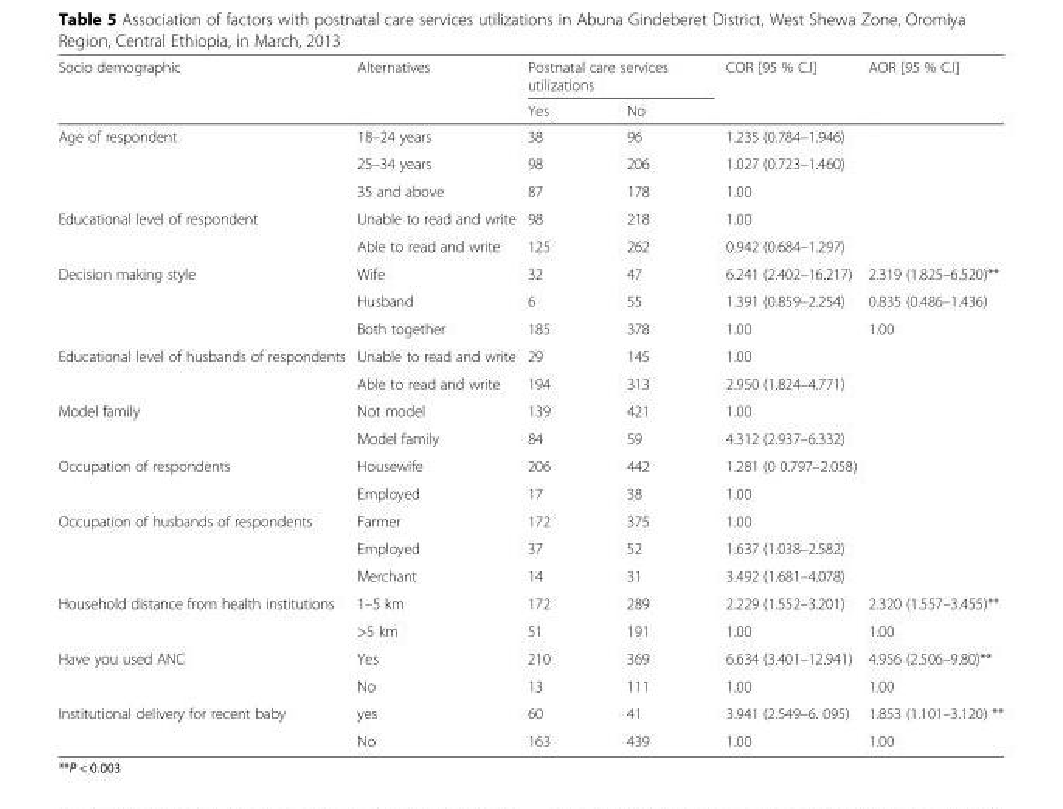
<table><thead><tr><td rowspan="2">Socio demographic</td><td rowspan="2">Alternatives</td><td colspan="2">Postnatal care services utilizations</td><td rowspan="2">COR [95 % C.I]</td><td rowspan="2">AOR [95 % C.I]</td></tr><tr><td>Yes</td><td>No</td></tr></thead><tbody><tr><td rowspan="3">Age of respondent</td><td>18–24 years</td><td>38</td><td>96</td><td>1.235 (0.784–1.946)</td><td></td></tr><tr><td>25–34 years</td><td>98</td><td>206</td><td>1.027 (0.723–1.460)</td><td></td></tr><tr><td>35 and above</td><td>87</td><td>178</td><td>1.00</td><td></td></tr><tr><td rowspan="2">Educational level of respondent</td><td>Unable to read and write</td><td>98</td><td>218</td><td>1.00</td><td></td></tr><tr><td>Able to read and write</td><td>125</td><td>262</td><td>0.942 (0.684–1.297)</td><td></td></tr><tr><td rowspan="3">Decision making style</td><td>Wife</td><td>32</td><td>47</td><td>6.241 (2.402–16.217)</td><td>2.319 (1.825–6.520)**</td></tr><tr><td>Husband</td><td>6</td><td>55</td><td>1.391 (0.859–2.254)</td><td>0.835 (0.486–1.436)</td></tr><tr><td>Both together</td><td>185</td><td>378</td><td>1.00</td><td>1.00</td></tr><tr><td rowspan="2">Educational level of husbands of respondents</td><td>Unable to read and write</td><td>29</td><td>145</td><td>1.00</td><td></td></tr><tr><td>Able to read and write</td><td>194</td><td>313</td><td>2.950 (1.824–4.771)</td><td></td></tr><tr><td rowspan="2">Model family</td><td>Not model</td><td>139</td><td>421</td><td>1.00</td><td></td></tr><tr><td>Model family</td><td>84</td><td>59</td><td>4.312 (2.937–6.332)</td><td></td></tr><tr><td rowspan="2">Occupation of respondents</td><td>Housewife</td><td>206</td><td>442</td><td>1.281 (0 0.797–2.058)</td><td></td></tr><tr><td>Employed</td><td>17</td><td>38</td><td>1.00</td><td></td></tr><tr><td rowspan="3">Occupation of husbands of respondents</td><td>Farmer</td><td>172</td><td>375</td><td>1.00</td><td></td></tr><tr><td>Employed</td><td>37</td><td>52</td><td>1.637 (1.038–2.582)</td><td></td></tr><tr><td>Merchant</td><td>14</td><td>31</td><td>3.492 (1.681–4.078)</td><td></td></tr><tr><td rowspan="2">Household distance from health institutions</td><td>1–5 km</td><td>172</td><td>289</td><td>2.229 (1.552–3.201)</td><td>2.320 (1.557–3.455)**</td></tr><tr><td>&gt;5 km</td><td>51</td><td>191</td><td>1.00</td><td>1.00</td></tr><tr><td rowspan="2">Have you used ANC</td><td>Yes</td><td>210</td><td>369</td><td>6.634 (3.401–12.941)</td><td>4.956 (2.506–9.80)**</td></tr><tr><td>No</td><td>13</td><td>111</td><td>1.00</td><td>1.00</td></tr><tr><td rowspan="2">Institutional delivery for recent baby</td><td>yes</td><td>60</td><td>41</td><td>3.941 (2.549–6. 095)</td><td>1.853 (1.101–3.120) **</td></tr><tr><td>No</td><td>163</td><td>439</td><td>1.00</td><td>1.00</td></tr></tbody></table>